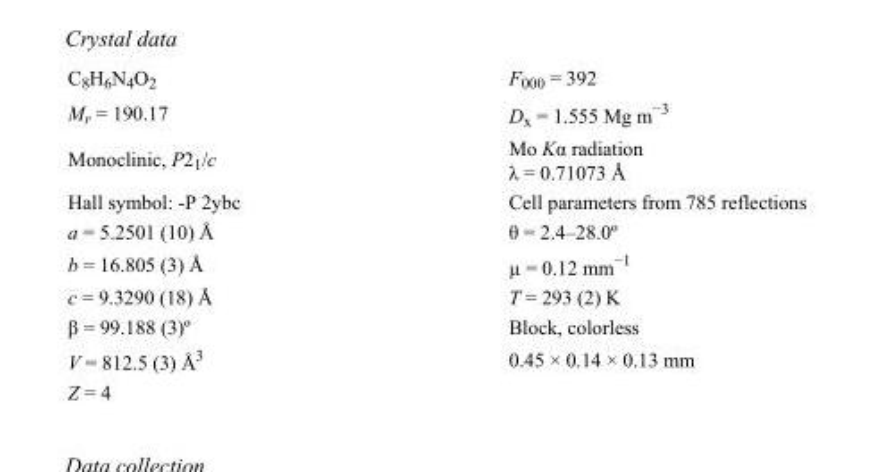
<table><tbody><tr><td>C<sub>8</sub>H<sub>6</sub>N<sub>4</sub>O<sub>2</sub></td><td>F000 = 392</td></tr><tr><td>M<sub>r</sub> = 190.17</td><td>D<sub>x</sub> = 1.555 Mg m<sup>−3</sup></td></tr><tr><td>Monoclinic, P2<sub>1</sub>/c</td><td>Mo Kα radiation λ = 0.71073 Å</td></tr><tr><td>Hall symbol: -P 2ybc</td><td>Cell parameters from 785 reflections</td></tr><tr><td>a = 5.2501 (10) Å</td><td>θ = 2.4–28.0º</td></tr><tr><td>b = 16.805 (3) Å</td><td>µ = 0.12 mm<sup>−1</sup></td></tr><tr><td>c = 9.3290 (18) Å</td><td>T = 293 (2) K</td></tr><tr><td>β = 99.188 (3)º</td><td>Block, colorless</td></tr><tr><td>V = 812.5 (3) Å<sup>3</sup></td><td>0.45 × 0.14 × 0.13 mm</td></tr><tr><td>Z = 4</td><td></td></tr></tbody></table>